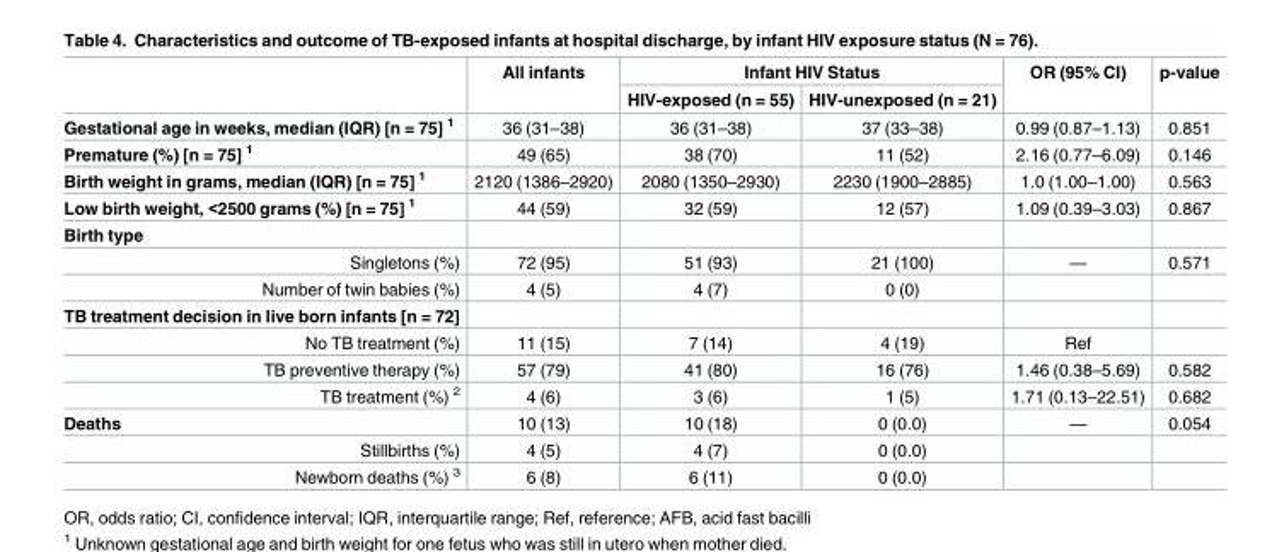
<table><thead><tr><td rowspan="2"></td><td rowspan="2">All infants</td><td colspan="2">Infant HIV Status</td><td rowspan="2">OR (95% CI)</td><td rowspan="2">p-value</td></tr><tr><td>HIV-exposed (n = 55)</td><td>HIV-unexposed (n = 21)</td></tr></thead><tbody><tr><td>Gestational age in weeks, median (IQR) [n = 75] <sup>1</sup></td><td>36 (31–38)</td><td>36 (31–38)</td><td>37 (33–38)</td><td>0.99 (0.87–1.13)</td><td>0.851</td></tr><tr><td>Premature (%) [n = 75] <sup>1</sup></td><td>49 (65)</td><td>38 (70)</td><td>11 (52)</td><td>2.16 (0.77–6.09)</td><td>0.146</td></tr><tr><td>Birth weight in grams, median (IQR) [n = 75] <sup>1</sup></td><td>2120 (1386–2920)</td><td>2080 (1350–2930)</td><td>2230 (1900–2885)</td><td>1.0 (1.00–1.00)</td><td>0.563</td></tr><tr><td>Low birth weight, &lt;2500 grams (%) [n = 75] <sup>1</sup></td><td>44 (59)</td><td>32 (59)</td><td>12 (57)</td><td>1.09 (0.39–3.03)</td><td>0.867</td></tr><tr><td colspan="6">Birth type</td></tr><tr><td>Singletons (%)</td><td>72 (95)</td><td>51 (93)</td><td>21 (100)</td><td>—</td><td>0.571</td></tr><tr><td>Number of twin babies (%)</td><td>4 (5)</td><td>4 (7)</td><td>0 (0)</td><td></td><td></td></tr><tr><td colspan="6">TB treatment decision in live born infants [n = 72]</td></tr><tr><td>No TB treatment (%)</td><td>11 (15)</td><td>7 (14)</td><td>4 (19)</td><td>Ref</td><td></td></tr><tr><td>TB preventive therapy (%)</td><td>57 (79)</td><td>41 (80)</td><td>16 (76)</td><td>1.46 (0.38–5.69)</td><td>0.582</td></tr><tr><td>TB treatment (%) <sup>2</sup></td><td>4 (6)</td><td>3 (6)</td><td>1 (5)</td><td>1.71 (0.13–22.51)</td><td>0.682</td></tr><tr><td>Deaths</td><td>10 (13)</td><td>10 (18)</td><td>0 (0.0)</td><td>—</td><td>0.054</td></tr><tr><td>Stillbirths (%)</td><td>4 (5)</td><td>4 (7)</td><td>0 (0.0)</td><td></td><td></td></tr><tr><td>Newborn deaths (%) <sup>3</sup></td><td>6 (8)</td><td>6 (11)</td><td>0 (0.0)</td><td></td><td></td></tr></tbody></table>